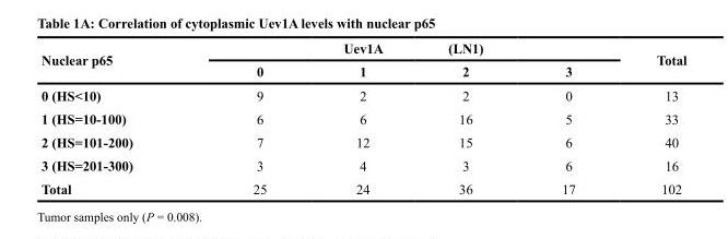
<table><thead><tr><td rowspan="2">Nuclear p65</td><td rowspan="2">0</td><td rowspan="2">Uev1A 1</td><td rowspan="2">(LN1) 2</td><td rowspan="2">3</td><td rowspan="2">Total</td></tr><tr></tr></thead><tbody><tr><td>0 (HS&lt;10)</td><td>9</td><td>2</td><td>2</td><td>0</td><td>13</td></tr><tr><td>1 (HS=10-100)</td><td>6</td><td>6</td><td>16</td><td>5</td><td>33</td></tr><tr><td>2 (HS=101-200)</td><td>7</td><td>12</td><td>15</td><td>6</td><td>40</td></tr><tr><td>3 (HS=201-300)</td><td>3</td><td>4</td><td>3</td><td>6</td><td>16</td></tr><tr><td>Total</td><td>25</td><td>24</td><td>36</td><td>17</td><td>102</td></tr></tbody></table>